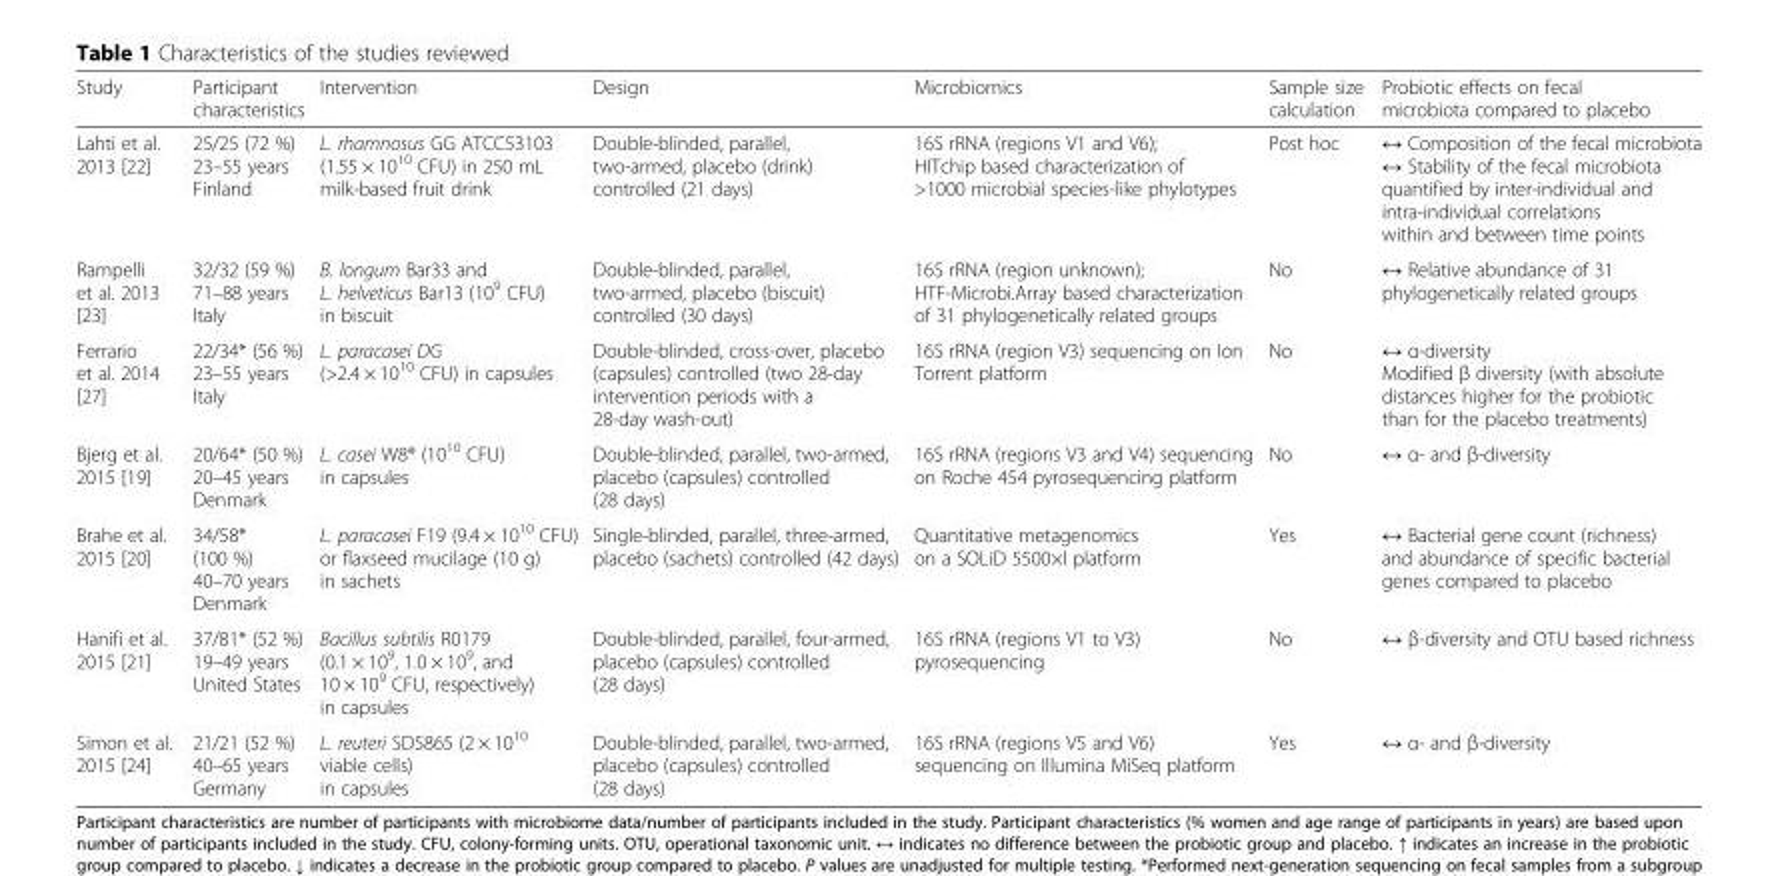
<table><thead><tr><td>Study</td><td>Participant characteristics</td><td>Intervention</td><td>Design</td><td>Microbiomics</td><td>Sample size calculation</td><td>Probiotic effects on fecal microbiota compared to placebo</td></tr></thead><tbody><tr><td>Lahti et al. 2013 [22]</td><td>25/25 (72 %) 23–55 years Finland</td><td>L. rhamnosus GG ATCC53103 (1.55 × 10<sup>10</sup> CFU) in 250 mL milk-based fruit drink</td><td>Double-blinded, parallel, two-armed, placebo (drink) controlled (21 days)</td><td>16S rRNA (regions V1 and V6); HITchip based characterization of &gt;1000 microbial species-like phylotypes</td><td>Post hoc</td><td>↔ Composition of the fecal microbiota ↔ Stability of the fecal microbiota quantified by inter-individual and intra-individual correlations within and between time points</td></tr><tr><td>Rampelli et al. 2013 [23]</td><td>32/32 (59 %) 71–88 years Italy</td><td>B. longum Bar33 and L. helveticus Bar13 (10<sup>9</sup> CFU) in biscuit</td><td>Double-blinded, parallel, two-armed, placebo (biscuit) controlled (30 days)</td><td>16S rRNA (region unknown); HTF-Microbi.Array based characterization of 31 phylogenetically related groups</td><td>No</td><td>↔ Relative abundance of 31 phylogenetically related groups</td></tr><tr><td>Ferrario et al. 2014 [27]</td><td>22/34* (56 %) 23–55 years Italy</td><td>L. paracasei DG (&gt;2.4 × 10<sup>10</sup> CFU) in capsules</td><td>Double-blinded, cross-over, placebo (capsules) controlled (two 28-day intervention periods with a 28-day wash-out)</td><td>16S rRNA (region V3) sequencing on Ion Torrent platform</td><td>No</td><td>↔ α-diversity Modified β diversity (with absolute distances higher for the probiotic than for the placebo treatments)</td></tr><tr><td>Bjerg et al. 2015 [19]</td><td>20/64* (50 %) 20–45 years Denmark</td><td>L. casei W8® (10<sup>10</sup> CFU) in capsules</td><td>Double-blinded, parallel, two-armed, placebo (capsules) controlled (28 days)</td><td>16S rRNA (regions V3 and V4) sequencing on Roche 454 pyrosequencing platform</td><td>No</td><td>↔ α- and β-diversity</td></tr><tr><td>Brahe et al. 2015 [20]</td><td>34/58* (100 %) 40–70 years Denmark</td><td>L. paracasei F19 (9.4 × 10<sup>10</sup> CFU) or flaxseed mucilage (10 g) in sachets</td><td>Single-blinded, parallel, three-armed, placebo (sachets) controlled (42 days)</td><td>Quantitative metagenomics on a SOLiD 5500×l platform</td><td>Yes</td><td>↔ Bacterial gene count (richness) and abundance of specific bacterial genes compared to placebo</td></tr><tr><td>Hanifi et al. 2015 [21]</td><td>37/81* (52 %) 19–49 years United States</td><td>Bacillus subtilis R0179 (0.1 × 10<sup>9</sup>, 1.0 × 10<sup>9</sup>, and 10 × 10<sup>9</sup> CFU, respectively) in capsules</td><td>Double-blinded, parallel, four-armed, placebo (capsules) controlled (28 days)</td><td>16S rRNA (regions V1 to V3) pyrosequencing</td><td>No</td><td>↔ β-diversity and OTU based richness</td></tr><tr><td>Simon et al. 2015 [24]</td><td>21/21 (52 %) 40–65 years Germany</td><td>L. reuteri SD5865 (2 × 10<sup>10</sup> viable cells) in capsules</td><td>Double-blinded, parallel, two-armed, placebo (capsules) controlled (28 days)</td><td>16S rRNA (regions V5 and V6) sequencing on Illumina MiSeq platform</td><td>Yes</td><td>↔ α- and β-diversity</td></tr></tbody></table>